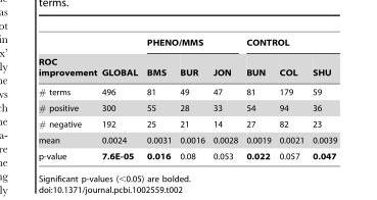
<table><thead><tr><td rowspan="2">ROC improvement</td><td rowspan="2">GLOBAL</td><td colspan="3">PHENO/MMS</td><td colspan="3">CONTROL</td></tr><tr><td>BMS</td><td>BUR</td><td>JON</td><td>BUN</td><td>COL</td><td>SHU</td></tr></thead><tbody><tr><td># terms</td><td>496</td><td>81</td><td>49</td><td>47</td><td>81</td><td>179</td><td>59</td></tr><tr><td># positive</td><td>300</td><td>55</td><td>28</td><td>33</td><td>54</td><td>94</td><td>36</td></tr><tr><td># negative</td><td>192</td><td>25</td><td>21</td><td>14</td><td>27</td><td>82</td><td>23</td></tr><tr><td>mean</td><td>0.0024</td><td>0.0031</td><td>0.0016</td><td>0.0028</td><td>0.0019</td><td>0.0021</td><td>0.0039</td></tr><tr><td>p-value</td><td>7.6E-05</td><td>0.016</td><td>0.08</td><td>0.053</td><td>0.022</td><td>0.057</td><td>0.047</td></tr></tbody></table>